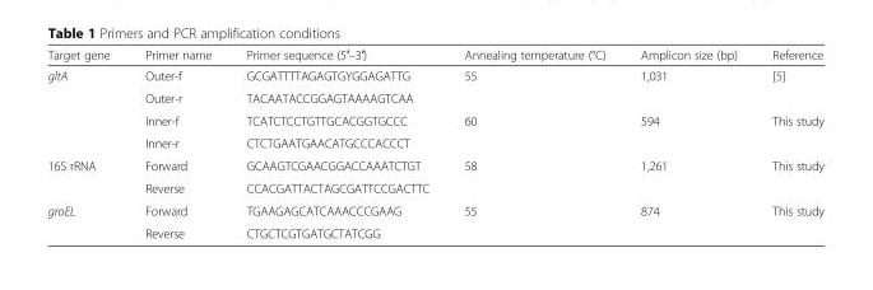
<table><thead><tr><td>Target gene</td><td>Primer name</td><td>Primer sequence (5′–3′)</td><td>Annealing temperature (°C)</td><td>Amplicon size (bp)</td><td>Reference</td></tr></thead><tbody><tr><td rowspan="4">gltA</td><td>Outer-f</td><td>GCGATTTTAGAGTGYGGAGATTG</td><td>55</td><td>1,031</td><td>[5]</td></tr><tr><td>Outer-r</td><td>TACAATACCGGAGTAAAAGTCAA</td><td></td><td></td><td></td></tr><tr><td>Inner-f</td><td>TCATCTCCTGTTGCACGGTGCCC</td><td>60</td><td>594</td><td>This study</td></tr><tr><td>Inner-r</td><td>CTCTGAATGAACATGCCCACCCT</td><td></td><td></td><td></td></tr><tr><td rowspan="2">16S rRNA</td><td>Forward</td><td>GCAAGTCGAACGGACCAAATCTGT</td><td>58</td><td>1,261</td><td>This study</td></tr><tr><td>Reverse</td><td>CCACGATTACTAGCGATTCCGACTTC</td><td></td><td></td><td></td></tr><tr><td rowspan="2">groEL</td><td>Forward</td><td>TGAAGAGCATCAAACCCGAAG</td><td>55</td><td>874</td><td>This study</td></tr><tr><td>Reverse</td><td>CTGCTCGTGATGCTATCGG</td><td></td><td></td><td></td></tr></tbody></table>